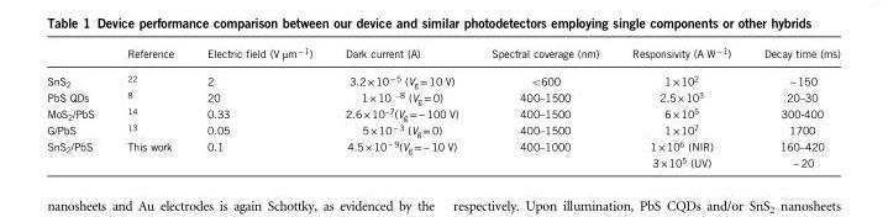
<table><thead><tr><td></td><td>Reference</td><td>Electric field (V μm <sup>− 1</sup>)</td><td>Dark current (A)</td><td>Spectral coverage (nm)</td><td>Responsivity (A W <sup>− 1</sup>)</td><td>Decay time (ms)</td></tr></thead><tbody><tr><td>SnS<sub>2</sub></td><td><sup>22</sup></td><td>2</td><td>3.2× 10<sup>− 5</sup> (V<sub>g</sub> = 10 V)</td><td>&lt;600</td><td>1 × 10<sup>2</sup></td><td>~ 150</td></tr><tr><td>PbS QDs</td><td><sup>8</sup></td><td>20</td><td>1 × 10 <sup>−8</sup> (V<sub>g</sub> = 0)</td><td>400–1500</td><td>2.5 × 10<sup>3</sup></td><td>20–30</td></tr><tr><td>MoS<sub>2</sub>/PbS</td><td><sup>14</sup></td><td>0.33</td><td>2.6× 10<sup>−7</sup>(V<sub>g</sub> = − 100 V)</td><td>400–1500</td><td>6 × 10<sup>5</sup></td><td>300-400</td></tr><tr><td>G/PbS</td><td><sup>13</sup></td><td>0.05</td><td>5 × 10<sup>− 3</sup> (V<sub>g</sub> = 0)</td><td>400–1500</td><td>1 × 10<sup>7</sup></td><td>1700</td></tr><tr><td>SnS<sub>2</sub>/PbS</td><td>This work</td><td>0.1</td><td>4.5 × 10<sup>− 9</sup>(V<sub>g</sub> = − 10 V)</td><td>400–1000</td><td>1 × 10<sup>6</sup> (NIR) 3 × 10<sup>5</sup> (UV)</td><td>160–420 ~ 20</td></tr></tbody></table>